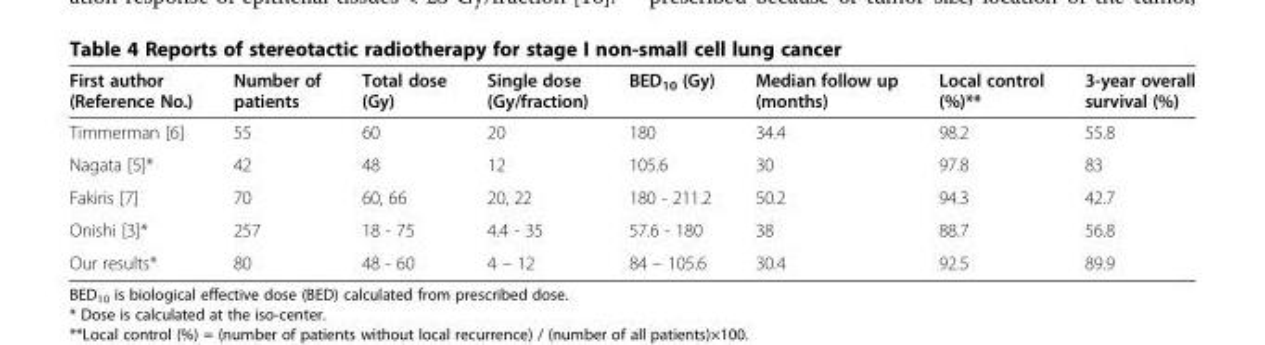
<table><thead><tr><td>First author (Reference No.)</td><td>Number of patients</td><td>Total dose (Gy)</td><td>Single dose (Gy/fraction)</td><td>BED<sub>10</sub> (Gy)</td><td>Median follow up (months)</td><td>Local control (%)**</td><td>3-year overall survival (%)</td></tr></thead><tbody><tr><td>Timmerman [6]</td><td>55</td><td>60</td><td>20</td><td>180</td><td>34.4</td><td>98.2</td><td>55.8</td></tr><tr><td>Nagata [5]*</td><td>42</td><td>48</td><td>12</td><td>105.6</td><td>30</td><td>97.8</td><td>83</td></tr><tr><td>Fakiris [7]</td><td>70</td><td>60, 66</td><td>20, 22</td><td>180 - 211.2</td><td>50.2</td><td>94.3</td><td>42.7</td></tr><tr><td>Onishi [3]*</td><td>257</td><td>18 - 75</td><td>4.4 - 35</td><td>57.6 - 180</td><td>38</td><td>88.7</td><td>56.8</td></tr><tr><td>Our results*</td><td>80</td><td>48 - 60</td><td>4 – 12</td><td>84 – 105.6</td><td>30.4</td><td>92.5</td><td>89.9</td></tr></tbody></table>